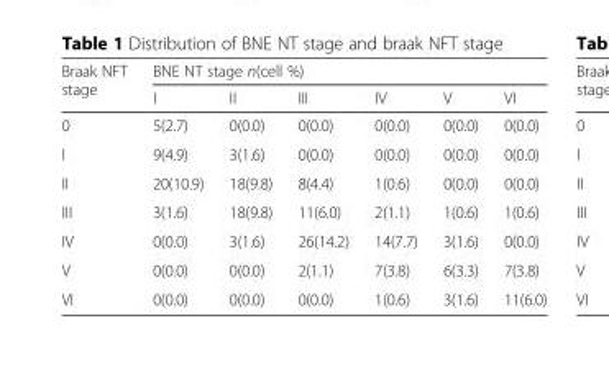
<table><thead><tr><td rowspan="2">Braak NFT stage</td><td colspan="6">BNE NT stage n(cell %)</td></tr><tr><td>I</td><td>II</td><td>III</td><td>IV</td><td>V</td><td>VI</td></tr></thead><tbody><tr><td>0</td><td>5(2.7)</td><td>0(0.0)</td><td>0(0.0)</td><td>0(0.0)</td><td>0(0.0)</td><td>0(0.0)</td></tr><tr><td>I</td><td>9(4.9)</td><td>3(1.6)</td><td>0(0.0)</td><td>0(0.0)</td><td>0(0.0)</td><td>0(0.0)</td></tr><tr><td>II</td><td>20(10.9)</td><td>18(9.8)</td><td>8(4.4)</td><td>1(0.6)</td><td>0(0.0)</td><td>0(0.0)</td></tr><tr><td>III</td><td>3(1.6)</td><td>18(9.8)</td><td>11(6.0)</td><td>2(1.1)</td><td>1(0.6)</td><td>1(0.6)</td></tr><tr><td>IV</td><td>0(0.0)</td><td>3(1.6)</td><td>26(14.2)</td><td>14(7.7)</td><td>3(1.6)</td><td>0(0.0)</td></tr><tr><td>V</td><td>0(0.0)</td><td>0(0.0)</td><td>2(1.1)</td><td>7(3.8)</td><td>6(3.3)</td><td>7(3.8)</td></tr><tr><td>VI</td><td>0(0.0)</td><td>0(0.0)</td><td>0(0.0)</td><td>1(0.6)</td><td>3(1.6)</td><td>11(6.0)</td></tr></tbody></table>